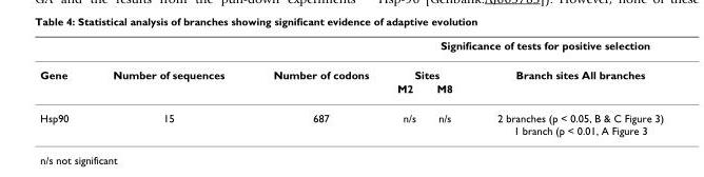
<table><thead><tr><td rowspan="3">Gene</td><td rowspan="3">Number of sequences</td><td rowspan="3">Number of codons</td><td colspan="3">Significance of tests for positive selection</td></tr><tr><td colspan="2">Sites</td><td rowspan="2">Branch sites All branches</td></tr><tr><td>M2</td><td>M8</td></tr></thead><tbody><tr><td>Hsp90</td><td>15</td><td>687</td><td>n/s</td><td>n/s</td><td>2 branches (p &lt; 0.05, B &amp; C Figure 3) 1 branch (p &lt; 0.01, A Figure 3</td></tr></tbody></table>